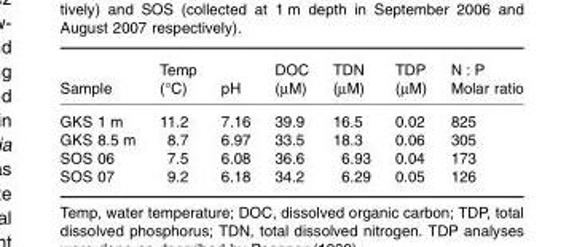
<table><thead><tr><td rowspan="2">Sample</td><td rowspan="2">Temp (°C)</td><td rowspan="2">pH</td><td rowspan="2">DOC (μM)</td><td rowspan="2">TDN (μM)</td><td rowspan="2">TDP (μM)</td><td rowspan="2">N : P Molar ratio</td></tr><tr></tr></thead><tbody><tr><td>GKS 1 m</td><td>11.2</td><td>7.16</td><td>39.9</td><td>16.5</td><td>0.02</td><td>825</td></tr><tr><td>GKS 8.5 m</td><td>8.7</td><td>6.97</td><td>33.5</td><td>18.3</td><td>0.06</td><td>305</td></tr><tr><td>SOS 06</td><td>7.5</td><td>6.08</td><td>36.6</td><td>6.93</td><td>0.04</td><td>173</td></tr><tr><td>SOS 07</td><td>9.2</td><td>6.18</td><td>34.2</td><td>6.29</td><td>0.05</td><td>126</td></tr></tbody></table>